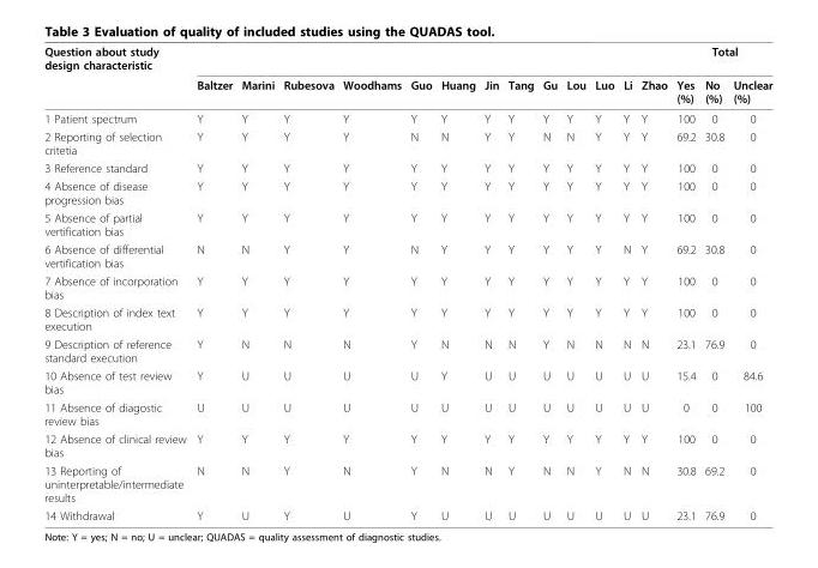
<table><thead><tr><td rowspan="2">Question about study design characteristic</td><td rowspan="2">Baltzer</td><td rowspan="2">Marini</td><td rowspan="2">Rubesova</td><td rowspan="2">Woodhams</td><td rowspan="2">Guo</td><td rowspan="2">Huang</td><td rowspan="2">Jin</td><td rowspan="2">Tang</td><td rowspan="2">Gu</td><td rowspan="2">Lou</td><td rowspan="2">Luo</td><td rowspan="2">Li</td><td rowspan="2">Zhao</td><td colspan="3">Total</td></tr><tr><td>Yes (%)</td><td>No (%)</td><td>Unclear (%)</td></tr></thead><tbody><tr><td>1 Patient spectrum</td><td>Y</td><td>Y</td><td>Y</td><td>Y</td><td>Y</td><td>Y</td><td>Y</td><td>Y</td><td>Y</td><td>Y</td><td>Y</td><td>Y</td><td>Y</td><td>100</td><td>0</td><td>0</td></tr><tr><td>2 Reporting of selection critetia</td><td>Y</td><td>Y</td><td>Y</td><td>Y</td><td>N</td><td>N</td><td>Y</td><td>Y</td><td>N</td><td>N</td><td>Y</td><td>Y</td><td>Y</td><td>69.2</td><td>30.8</td><td>0</td></tr><tr><td>3 Reference standard</td><td>Y</td><td>Y</td><td>Y</td><td>Y</td><td>Y</td><td>Y</td><td>Y</td><td>Y</td><td>Y</td><td>Y</td><td>Y</td><td>Y</td><td>Y</td><td>100</td><td>0</td><td>0</td></tr><tr><td>4 Absence of disease progression bias</td><td>Y</td><td>Y</td><td>Y</td><td>Y</td><td>Y</td><td>Y</td><td>Y</td><td>Y</td><td>Y</td><td>Y</td><td>Y</td><td>Y</td><td>Y</td><td>100</td><td>0</td><td>0</td></tr><tr><td>5 Absence of partial vertification bias</td><td>Y</td><td>Y</td><td>Y</td><td>Y</td><td>Y</td><td>Y</td><td>Y</td><td>Y</td><td>Y</td><td>Y</td><td>Y</td><td>Y</td><td>Y</td><td>100</td><td>0</td><td>0</td></tr><tr><td>6 Absence of differential vertification bias</td><td>N</td><td>N</td><td>Y</td><td>Y</td><td>N</td><td>Y</td><td>Y</td><td>Y</td><td>Y</td><td>Y</td><td>Y</td><td>N</td><td>Y</td><td>69.2</td><td>30.8</td><td>0</td></tr><tr><td>7 Absence of incorporation bias</td><td>Y</td><td>Y</td><td>Y</td><td>Y</td><td>Y</td><td>Y</td><td>Y</td><td>Y</td><td>Y</td><td>Y</td><td>Y</td><td>Y</td><td>Y</td><td>100</td><td>0</td><td>0</td></tr><tr><td>8 Description of index text execution</td><td>Y</td><td>Y</td><td>Y</td><td>Y</td><td>Y</td><td>Y</td><td>Y</td><td>Y</td><td>Y</td><td>Y</td><td>Y</td><td>Y</td><td>Y</td><td>100</td><td>0</td><td>0</td></tr><tr><td>9 Description of reference standard execution</td><td>Y</td><td>N</td><td>N</td><td>N</td><td>Y</td><td>N</td><td>N</td><td>N</td><td>Y</td><td>N</td><td>N</td><td>N</td><td>N</td><td>23.1</td><td>76.9</td><td>0</td></tr><tr><td>10 Absence of test review bias</td><td>Y</td><td>U</td><td>U</td><td>U</td><td>U</td><td>Y</td><td>U</td><td>U</td><td>U</td><td>U</td><td>U</td><td>U</td><td>U</td><td>15.4</td><td>0</td><td>84.6</td></tr><tr><td>11 Absence of diagostic review bias</td><td>U</td><td>U</td><td>U</td><td>U</td><td>U</td><td>U</td><td>U</td><td>U</td><td>U</td><td>U</td><td>U</td><td>U</td><td>U</td><td>0</td><td>0</td><td>100</td></tr><tr><td>12 Absence of clinical review bias</td><td>Y</td><td>Y</td><td>Y</td><td>Y</td><td>Y</td><td>Y</td><td>Y</td><td>Y</td><td>Y</td><td>Y</td><td>Y</td><td>Y</td><td>Y</td><td>100</td><td>0</td><td>0</td></tr><tr><td>13 Reporting of uninterpretable/intermediate results</td><td>N</td><td>N</td><td>Y</td><td>N</td><td>Y</td><td>N</td><td>N</td><td>Y</td><td>N</td><td>N</td><td>Y</td><td>N</td><td>N</td><td>30.8</td><td>69.2</td><td>0</td></tr><tr><td>14 Withdrawal</td><td>Y</td><td>U</td><td>Y</td><td>U</td><td>Y</td><td>U</td><td>U</td><td>U</td><td>U</td><td>U</td><td>U</td><td>U</td><td>U</td><td>23.1</td><td>76.9</td><td>0</td></tr></tbody></table>